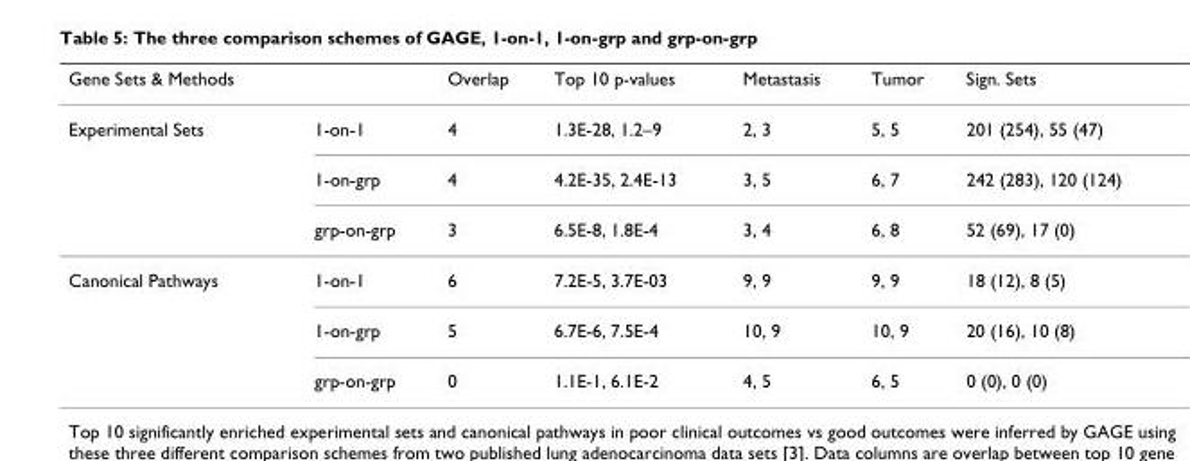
<table><thead><tr><td>Gene Sets &amp; Methods</td><td></td><td>Overlap</td><td>Top 10 p-values</td><td>Metastasis</td><td>Tumor</td><td>Sign. Sets</td></tr></thead><tbody><tr><td rowspan="3">Experimental Sets</td><td>1-on-1</td><td>4</td><td>1.3E-28, 1.2–9</td><td>2, 3</td><td>5, 5</td><td>201 (254), 55 (47)</td></tr><tr><td>1-on-grp</td><td>4</td><td>4.2E-35, 2.4E-13</td><td>3, 5</td><td>6, 7</td><td>242 (283), 120 (124)</td></tr><tr><td>grp-on-grp</td><td>3</td><td>6.5E-8, 1.8E-4</td><td>3, 4</td><td>6, 8</td><td>52 (69), 17 (0)</td></tr><tr><td rowspan="3">Canonical Pathways</td><td>1-on-1</td><td>6</td><td>7.2E-5, 3.7E-03</td><td>9, 9</td><td>9, 9</td><td>18 (12), 8 (5)</td></tr><tr><td>1-on-grp</td><td>5</td><td>6.7E-6, 7.5E-4</td><td>10, 9</td><td>10, 9</td><td>20 (16), 10 (8)</td></tr><tr><td>grp-on-grp</td><td>0</td><td>1.1E-1, 6.1E-2</td><td>4, 5</td><td>6, 5</td><td>0 (0), 0 (0)</td></tr></tbody></table>